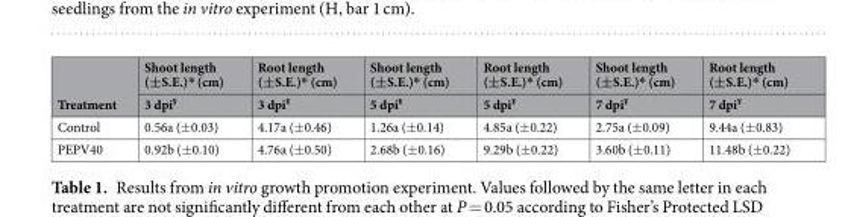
<table><thead><tr><td rowspan="2">Treatment</td><td rowspan="2">Shoot length (±S.E.)* (cm) 3 dpi<sup>¥</sup></td><td rowspan="2">Root length (±S.E.)* (cm) 3 dpi<sup>¥</sup></td><td rowspan="2">Shoot length (±S.E.)* (cm) 5 dpi<sup>¥</sup></td><td rowspan="2">Root length (±S.E.)* (cm) 5 dpi<sup>¥</sup></td><td rowspan="2">Shoot length (±S.E.)* (cm) 7 dpi<sup>¥</sup></td><td rowspan="2">Root length (±S.E.)* (cm) 7 dpi<sup>¥</sup></td></tr><tr></tr></thead><tbody><tr><td>Control</td><td>0.56a (±0.03)</td><td>4.17a (±0.46)</td><td>1.26a (±0.14)</td><td>4.85a (±0.22)</td><td>2.75a (±0.09)</td><td>9.44a (±0.83)</td></tr><tr><td>PEPV40</td><td>0.92b (±0.10)</td><td>4.76a (±0.50)</td><td>2.68b (±0.16)</td><td>9.29b (±0.22)</td><td>3.60b (±0.11)</td><td>11.48b (±0.22)</td></tr></tbody></table>